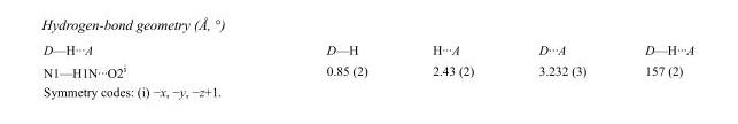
<table><tbody><tr><td>D—H···A</td><td>D—H</td><td>H···A</td><td>D···A</td><td>D—H···A</td></tr><tr><td>N1—H1N···O2<sup>i</sup></td><td>0.85 (2)</td><td>2.43 (2)</td><td>3.232 (3)</td><td>157 (2)</td></tr></tbody></table>